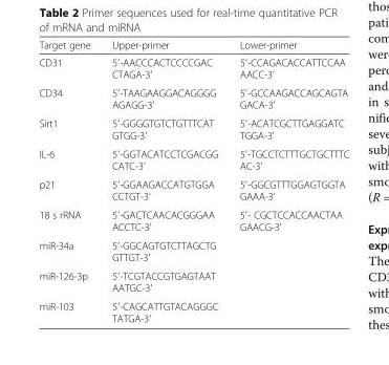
<table><thead><tr><td>Target gene</td><td>Upper-primer</td><td>Lower-primer</td></tr></thead><tbody><tr><td>CD31</td><td>5′-AACCCACTCCCCGAC CTAGA-3′</td><td>5′-CCAGACACCATTCCAA AACC-3′</td></tr><tr><td>CD34</td><td>5′-TAAGAAGGACAGGGG AGAGG-3′</td><td>5′-GCCAAGACCAGCAGTA GACA-3′</td></tr><tr><td>Sirt1</td><td>5′-GGGGTGTCTGTTTCAT GTGG-3′</td><td>5′-ACATCGCTTGAGGATC TGGA-3′</td></tr><tr><td>IL-6</td><td>5′-GGTACATCCTCGACGG CATC-3′</td><td>5′-TGCCTCTTTGCTGCTTTC AC-3′</td></tr><tr><td>p21</td><td>5′-GGAAGACCATGTGGA CCTGT-3′</td><td>5′-GGCGTTTGGAGTGGTA GAAA-3′</td></tr><tr><td>18 s rRNA</td><td>5′-GACTCAACACGGGAA ACCTC-3′</td><td>5′- CGCTCCACCAACTAA GAACG-3′</td></tr><tr><td>miR-34a</td><td>5′-GGCAGTGTCTTAGCTG GTTGT-3′</td><td></td></tr><tr><td>miR-126-3p</td><td>5′-TCGTACCGTGAGTAAT AATGC-3′</td><td></td></tr><tr><td>miR-103</td><td>5′-CAGCATTGTACAGGGC TATGA-3′</td><td></td></tr></tbody></table>